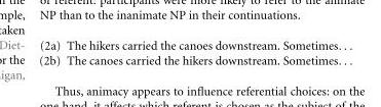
<table><tbody><tr><td>(2a)</td><td>The hikers carried the canoes downstream. Sometimes…</td></tr><tr><td>(2b)</td><td>The canoes carried the hikers downstream. Sometimes…</td></tr></tbody></table>